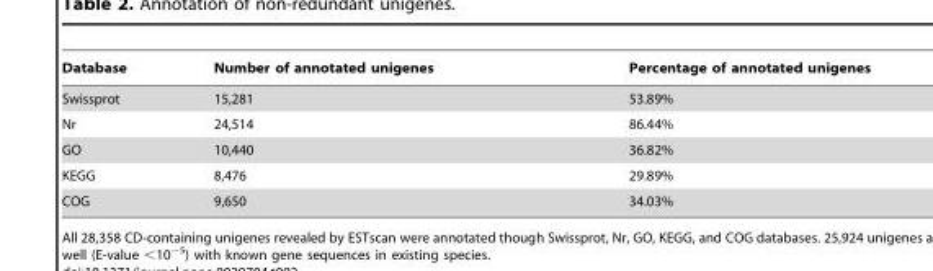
<table><thead><tr><td>Database</td><td>Number of annotated unigenes</td><td>Percentage of annotated unigenes</td></tr></thead><tbody><tr><td>Swissprot</td><td>15,281</td><td>53.89%</td></tr><tr><td>Nr</td><td>24,514</td><td>86.44%</td></tr><tr><td>GO</td><td>10,440</td><td>36.82%</td></tr><tr><td>KEGG</td><td>8,476</td><td>29.89%</td></tr><tr><td>COG</td><td>9,650</td><td>34.03%</td></tr></tbody></table>